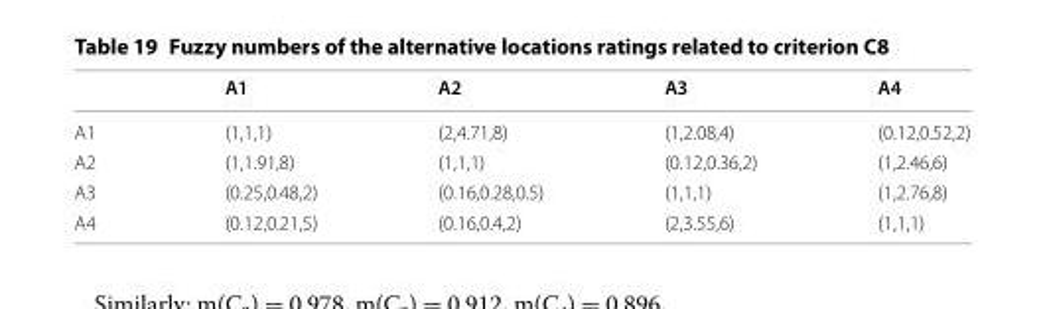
<table><thead><tr><td></td><td>A1</td><td>A2</td><td>A3</td><td>A4</td></tr></thead><tbody><tr><td>A1</td><td>(1,1,1)</td><td>(2,4.71,8)</td><td>(1,2.08,4)</td><td>(0.12,0.52,2)</td></tr><tr><td>A2</td><td>(1,1.91,8)</td><td>(1,1,1)</td><td>(0.12,0.36,2)</td><td>(1,2.46,6)</td></tr><tr><td>A3</td><td>(0.25,0.48,2)</td><td>(0.16,0.28,0.5)</td><td>(1,1,1)</td><td>(1,2.76,8)</td></tr><tr><td>A4</td><td>(0.12,0.21,5)</td><td>(0.16,0.4,2)</td><td>(2,3.55,6)</td><td>(1,1,1)</td></tr></tbody></table>